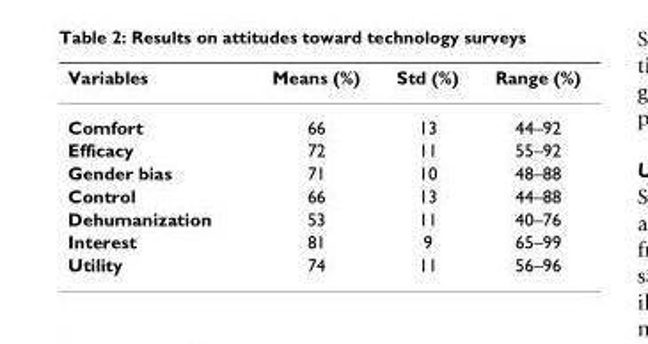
<table><thead><tr><td>Variables</td><td>Means (%)</td><td>Std (%)</td><td>Range (%)</td></tr></thead><tbody><tr><td>Comfort</td><td>66</td><td>13</td><td>44–92</td></tr><tr><td>Efficacy</td><td>72</td><td>11</td><td>55–92</td></tr><tr><td>Gender bias</td><td>71</td><td>10</td><td>48–88</td></tr><tr><td>Control</td><td>66</td><td>13</td><td>44–88</td></tr><tr><td>Dehumanization</td><td>53</td><td>11</td><td>40–76</td></tr><tr><td>Interest</td><td>81</td><td>9</td><td>65–99</td></tr><tr><td>Utility</td><td>74</td><td>11</td><td>56–96</td></tr></tbody></table>